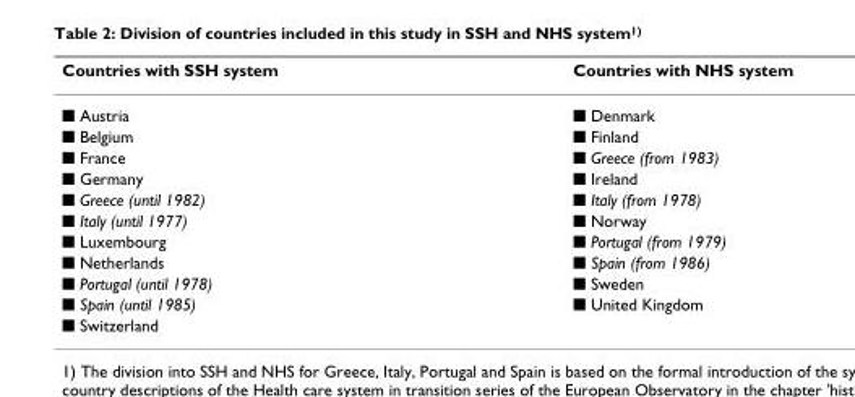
<table><thead><tr><td>Countries with SSH system</td><td>Countries with NHS system</td></tr></thead><tbody><tr><td>■ Austria</td><td>■ Denmark</td></tr><tr><td>■ Belgium</td><td>■ Finland</td></tr><tr><td>■ France</td><td>■ Greece (from 1983)</td></tr><tr><td>■ Germany</td><td>■ Ireland</td></tr><tr><td>■ Greece (until 1982)</td><td>■ Italy (from 1978)</td></tr><tr><td>■ Italy (until 1977)</td><td>■ Norway</td></tr><tr><td>■ Luxembourg</td><td>■ Portugal (from 1979)</td></tr><tr><td>■ Netherlands</td><td>■ Spain (from 1986)</td></tr><tr><td>■ Portugal (until 1978)</td><td>■ Sweden</td></tr><tr><td>■ Spain (until 1985)</td><td>■ United Kingdom</td></tr><tr><td>■ Switzerland</td><td></td></tr></tbody></table>